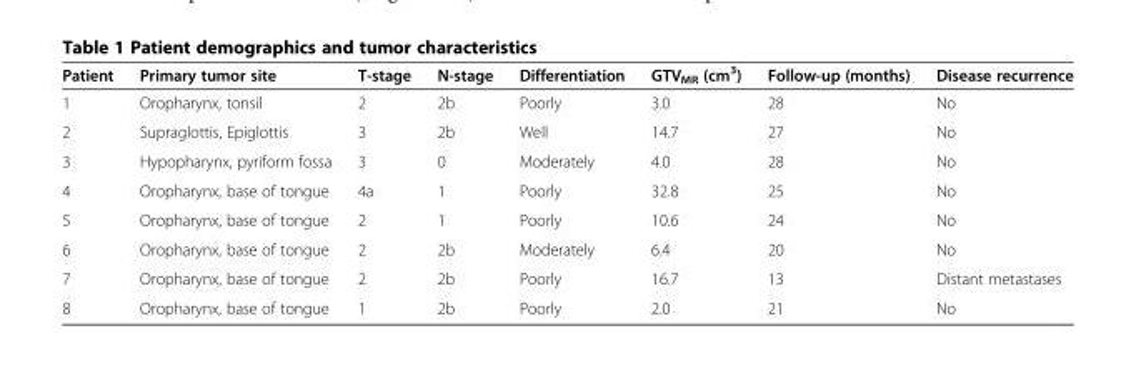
<table><thead><tr><td>Patient</td><td>Primary tumor site</td><td>T-stage</td><td>N-stage</td><td>Differentiation</td><td>GTV<sub>MR</sub> (cm<sup>3</sup>)</td><td>Follow-up (months)</td><td>Disease recurrence</td></tr></thead><tbody><tr><td>1</td><td>Oropharynx, tonsil</td><td>2</td><td>2b</td><td>Poorly</td><td>3.0</td><td>28</td><td>No</td></tr><tr><td>2</td><td>Supraglottis, Epiglottis</td><td>3</td><td>2b</td><td>Well</td><td>14.7</td><td>27</td><td>No</td></tr><tr><td>3</td><td>Hypopharynx, pyriform fossa</td><td>3</td><td>0</td><td>Moderately</td><td>4.0</td><td>28</td><td>No</td></tr><tr><td>4</td><td>Oropharynx, base of tongue</td><td>4a</td><td>1</td><td>Poorly</td><td>32.8</td><td>25</td><td>No</td></tr><tr><td>5</td><td>Oropharynx, base of tongue</td><td>2</td><td>1</td><td>Poorly</td><td>10.6</td><td>24</td><td>No</td></tr><tr><td>6</td><td>Oropharynx, base of tongue</td><td>2</td><td>2b</td><td>Moderately</td><td>6.4</td><td>20</td><td>No</td></tr><tr><td>7</td><td>Oropharynx, base of tongue</td><td>2</td><td>2b</td><td>Poorly</td><td>16.7</td><td>13</td><td>Distant metastases</td></tr><tr><td>8</td><td>Oropharynx, base of tongue</td><td>1</td><td>2b</td><td>Poorly</td><td>2.0</td><td>21</td><td>No</td></tr></tbody></table>